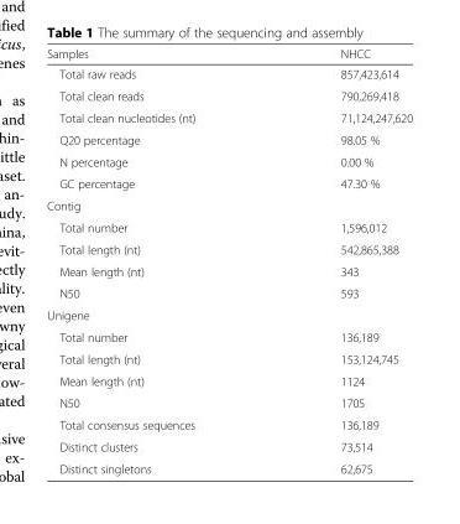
<table><thead><tr><td>Samples</td><td>NHCC</td></tr></thead><tbody><tr><td>Total raw reads</td><td>857,423,614</td></tr><tr><td>Total clean reads</td><td>790,269,418</td></tr><tr><td>Total clean nucleotides (nt)</td><td>71,124,247,620</td></tr><tr><td>Q20 percentage</td><td>98.05 %</td></tr><tr><td>N percentage</td><td>0.00 %</td></tr><tr><td>GC percentage</td><td>47.30 %</td></tr><tr><td colspan="2">Contig</td></tr><tr><td>Total number</td><td>1,596,012</td></tr><tr><td>Total length (nt)</td><td>542,865,388</td></tr><tr><td>Mean length (nt)</td><td>343</td></tr><tr><td>N50</td><td>593</td></tr><tr><td colspan="2">Unigene</td></tr><tr><td>Total number</td><td>136,189</td></tr><tr><td>Total length (nt)</td><td>153,124,745</td></tr><tr><td>Mean length (nt)</td><td>1124</td></tr><tr><td>N50</td><td>1705</td></tr><tr><td>Total consensus sequences</td><td>136,189</td></tr><tr><td>Distinct clusters</td><td>73,514</td></tr><tr><td>Distinct singletons</td><td>62,675</td></tr></tbody></table>